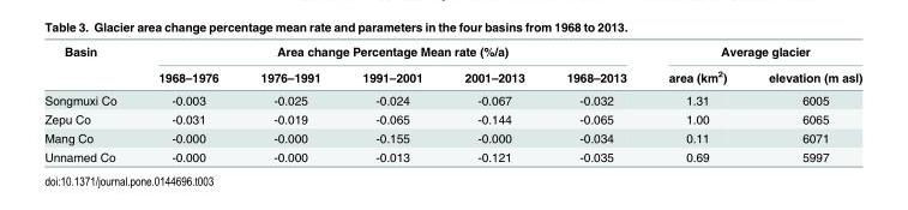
<table><thead><tr><td rowspan="2">Basin</td><td colspan="5">Area change Percentage Mean rate (%/a)</td><td colspan="2">Average glacier</td></tr><tr><td>1968–1976</td><td>1976–1991</td><td>1991–2001</td><td>2001–2013</td><td>1968–2013</td><td>area (km<sup>2</sup>)</td><td>elevation (m asl)</td></tr></thead><tbody><tr><td>Songmuxi Co</td><td>-0.003</td><td>-0.025</td><td>-0.024</td><td>-0.067</td><td>-0.032</td><td>1.31</td><td>6005</td></tr><tr><td>Zepu Co</td><td>-0.031</td><td>-0.019</td><td>-0.065</td><td>-0.144</td><td>-0.065</td><td>1.00</td><td>6065</td></tr><tr><td>Mang Co</td><td>-0.000</td><td>-0.000</td><td>-0.155</td><td>-0.000</td><td>-0.034</td><td>0.11</td><td>6071</td></tr><tr><td>Unnamed Co</td><td>-0.000</td><td>-0.000</td><td>-0.013</td><td>-0.121</td><td>-0.035</td><td>0.69</td><td>5997</td></tr></tbody></table>